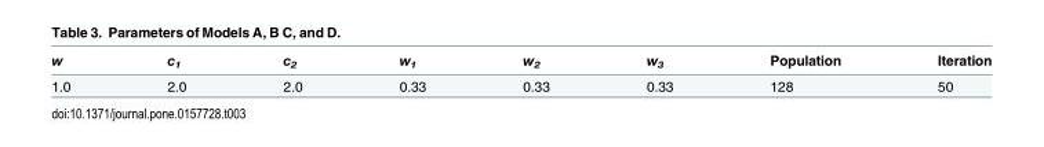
<table><thead><tr><td>w</td><td>c<sub>1</sub></td><td>c<sub>2</sub></td><td>w<sub>1</sub></td><td>w<sub>2</sub></td><td>w<sub>3</sub></td><td>Population</td><td>Iteration</td></tr></thead><tbody><tr><td>1.0</td><td>2.0</td><td>2.0</td><td>0.33</td><td>0.33</td><td>0.33</td><td>128</td><td>50</td></tr></tbody></table>